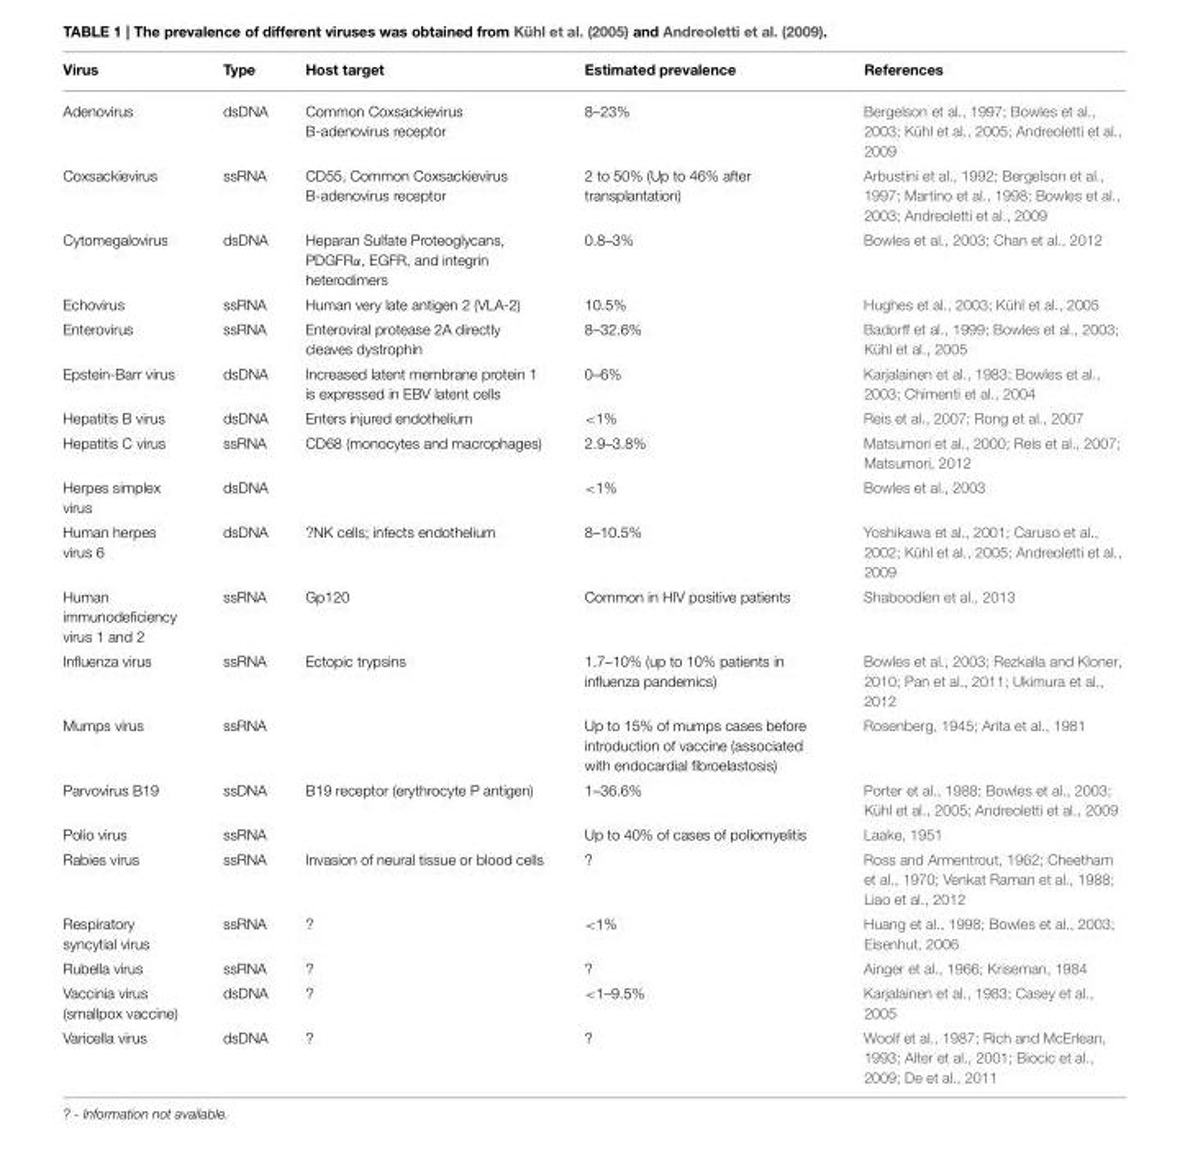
<table><thead><tr><td>Virus</td><td>Type</td><td>Host target</td><td>Estimated prevalence</td><td>References</td></tr></thead><tbody><tr><td>Adenovirus</td><td>dsDNA</td><td>Common Coxsackievirus B-adenovirus receptor</td><td>8–23%</td><td>Bergelson et al., 1997; Bowles et al., 2003; Kühl et al., 2005; Andreoletti et al., 2009</td></tr><tr><td>Coxsackievirus</td><td>ssRNA</td><td>CD55, Common Coxsackievirus B-adenovirus receptor</td><td>2 to 50% (Up to 46% after transplantation)</td><td>Arbustini et al., 1992; Bergelson et al., 1997; Martino et al., 1998; Bowles et al., 2003; Andreoletti et al., 2009</td></tr><tr><td>Cytomegalovirus</td><td>dsDNA</td><td>Heparan Sulfate Proteoglycans, PDGFRα, EGFR, and integrin heterodimers</td><td>0.8–3%</td><td>Bowles et al., 2003; Chan et al., 2012</td></tr><tr><td>Echovirus</td><td>ssRNA</td><td>Human very late antigen 2 (VLA-2)</td><td>10.5%</td><td>Hughes et al., 2003; Kühl et al., 2005</td></tr><tr><td>Enterovirus</td><td>ssRNA</td><td>Enteroviral protease 2A directly cleaves dystrophin</td><td>8–32.6%</td><td>Badorff et al., 1999; Bowles et al., 2003; Kühl et al., 2005</td></tr><tr><td>Epstein-Barr virus</td><td>dsDNA</td><td>Increased latent membrane protein 1 is expressed in EBV latent cells</td><td>0–6%</td><td>Karjalainen et al., 1983; Bowles et al., 2003; Chimenti et al., 2004</td></tr><tr><td>Hepatitis B virus</td><td>dsDNA</td><td>Enters injured endothelium</td><td>&lt;1%</td><td>Reis et al., 2007; Rong et al., 2007</td></tr><tr><td>Hepatitis C virus</td><td>ssRNA</td><td>CD68 (monocytes and macrophages)</td><td>2.9–3.8%</td><td>Matsumori et al., 2000; Reis et al., 2007; Matsumori, 2012</td></tr><tr><td>Herpes simplex virus</td><td>dsDNA</td><td></td><td>&lt;1%</td><td>Bowles et al., 2003</td></tr><tr><td>Human herpes virus 6</td><td>dsDNA</td><td>?NK cells; infects endothelium</td><td>8–10.5%</td><td>Yoshikawa et al., 2001; Caruso et al., 2002; Kühl et al., 2005; Andreoletti et al., 2009</td></tr><tr><td>Human immunodeficiency virus 1 and 2</td><td>ssRNA</td><td>Gp120</td><td>Common in HIV positive patients</td><td>Shaboodien et al., 2013</td></tr><tr><td>Influenza virus</td><td>ssRNA</td><td>Ectopic trypsins</td><td>1.7–10% (up to 10% patients in influenza pandemics)</td><td>Bowles et al., 2003; Rezkalla and Kloner, 2010; Pan et al., 2011; Ukimura et al., 2012</td></tr><tr><td>Mumps virus</td><td>ssRNA</td><td></td><td>Up to 15% of mumps cases before introduction of vaccine (associated with endocardial fibroelastosis)</td><td>Rosenberg, 1945; Arita et al., 1981</td></tr><tr><td>Parvovirus B19</td><td>ssDNA</td><td>B19 receptor (erythrocyte P antigen)</td><td>1–36.6%</td><td>Porter et al., 1988; Bowles et al., 2003; Kühl et al., 2005; Andreoletti et al., 2009</td></tr><tr><td>Polio virus</td><td>ssRNA</td><td></td><td>Up to 40% of cases of poliomyelitis</td><td>Laake, 1951</td></tr><tr><td>Rabies virus</td><td>ssRNA</td><td>Invasion of neural tissue or blood cells</td><td>?</td><td>Ross and Armentrout, 1962; Cheetham et al., 1970; Venkat Raman et al., 1988; Liao et al., 2012</td></tr><tr><td>Respiratory syncytial virus</td><td>ssRNA</td><td>?</td><td>&lt;1%</td><td>Huang et al., 1998; Bowles et al., 2003; Eisenhut, 2006</td></tr><tr><td>Rubella virus</td><td>ssRNA</td><td>?</td><td>?</td><td>Ainger et al., 1966; Kriseman, 1984</td></tr><tr><td>Vaccinia virus (smallpox vaccine)</td><td>dsDNA</td><td>?</td><td>&lt;1–9.5%</td><td>Karjalainen et al., 1983; Casey et al., 2005</td></tr><tr><td>Varicella virus</td><td>dsDNA</td><td>?</td><td>?</td><td>Woolf et al., 1987; Rich and McErlean, 1993; Alter et al., 2001; Biocic et al., 2009; De et al., 2011</td></tr></tbody></table>